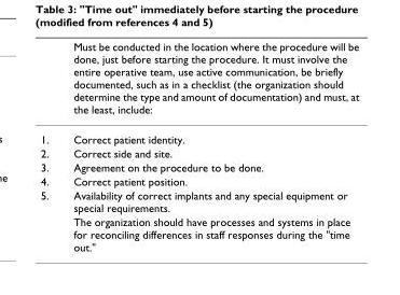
<table><thead><tr><td></td><td>Must be conducted in the location where the procedure will be done, just before starting the procedure. It must involve the entire operative team, use active communication, be briefly documented, such as in a checklist (the organization should determine the type and amount of documentation) and must, at the least, include:</td></tr></thead><tbody><tr><td>1.</td><td>Correct patient identity.</td></tr><tr><td>2.</td><td>Correct side and site.</td></tr><tr><td>3.</td><td>Agreement on the procedure to be done.</td></tr><tr><td>4.</td><td>Correct patient position.</td></tr><tr><td rowspan="2">5.</td><td>Availability of correct implants and any special equipment or special requirements.</td></tr><tr><td>The organization should have processes and systems in place for reconciling differences in staff responses during the &quot;time out.&quot;</td></tr></tbody></table>